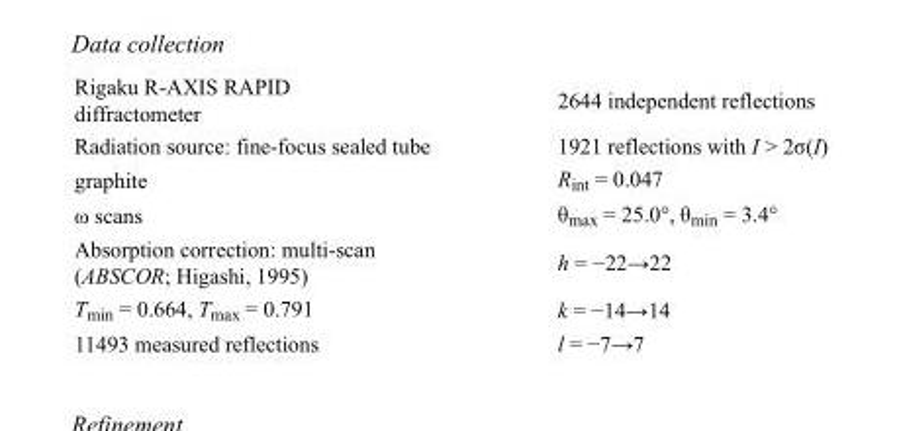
<table><tbody><tr><td>Rigaku R-AXIS RAPID diffractometer</td><td>2644 independent reflections</td></tr><tr><td>Radiation source: fine-focus sealed tube</td><td>1921 reflections with I &gt; 2σ(I)</td></tr><tr><td>graphite</td><td>R<sub>int</sub> = 0.047</td></tr><tr><td>ω scans</td><td>θ<sub>max</sub> = 25.0°, θ<sub>min</sub> = 3.4°</td></tr><tr><td>Absorption correction: multi-scan (ABSCOR; Higashi, 1995)</td><td>h = −22→22</td></tr><tr><td>T<sub>min</sub> = 0.664, T<sub>max</sub> = 0.791</td><td>k = −14→14</td></tr><tr><td>11493 measured reflections</td><td>l = −7→7</td></tr></tbody></table>